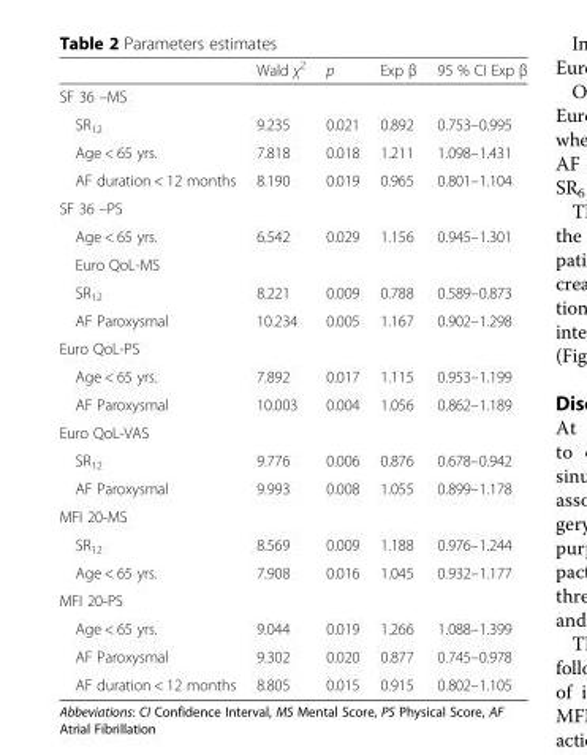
<table><thead><tr><td></td><td>Wald χ<sup>2</sup></td><td>p</td><td>Exp β</td><td>95 % CI Exp β</td></tr></thead><tbody><tr><td colspan="5">SF 36 –MS</td></tr><tr><td>SR<sub>12</sub></td><td>9.235</td><td>0.021</td><td>0.892</td><td>0.753–0.995</td></tr><tr><td>Age &lt; 65 yrs.</td><td>7.818</td><td>0.018</td><td>1.211</td><td>1.098–1.431</td></tr><tr><td>AF duration &lt; 12 months</td><td>8.190</td><td>0.019</td><td>0.965</td><td>0.801–1.104</td></tr><tr><td colspan="5">SF 36 –PS</td></tr><tr><td>Age &lt; 65 yrs.</td><td>6.542</td><td>0.029</td><td>1.156</td><td>0.945–1.301</td></tr><tr><td colspan="5">Euro QoL-MS</td></tr><tr><td>SR<sub>12</sub></td><td>8.221</td><td>0.009</td><td>0.788</td><td>0.589–0.873</td></tr><tr><td>AF Paroxysmal</td><td>10.234</td><td>0.005</td><td>1.167</td><td>0.902–1.298</td></tr><tr><td colspan="5">Euro QoL-PS</td></tr><tr><td>Age &lt; 65 yrs.</td><td>7.892</td><td>0.017</td><td>1.115</td><td>0.953–1.199</td></tr><tr><td>AF Paroxysmal</td><td>10.003</td><td>0.004</td><td>1.056</td><td>0.862–1.189</td></tr><tr><td colspan="5">Euro QoL-VAS</td></tr><tr><td>SR<sub>12</sub></td><td>9.776</td><td>0.006</td><td>0.876</td><td>0.678–0.942</td></tr><tr><td>AF Paroxysmal</td><td>9.993</td><td>0.008</td><td>1.055</td><td>0.899–1.178</td></tr><tr><td colspan="5">MFI 20-MS</td></tr><tr><td>SR<sub>12</sub></td><td>8.569</td><td>0.009</td><td>1.188</td><td>0.976–1.244</td></tr><tr><td>Age &lt; 65 yrs.</td><td>7.908</td><td>0.016</td><td>1.045</td><td>0.932–1.177</td></tr><tr><td colspan="5">MFI 20-PS</td></tr><tr><td>Age &lt; 65 yrs.</td><td>9.044</td><td>0.019</td><td>1.266</td><td>1.088–1.399</td></tr><tr><td>AF Paroxysmal</td><td>9.302</td><td>0.020</td><td>0.877</td><td>0.745–0.978</td></tr><tr><td>AF duration &lt; 12 months</td><td>8.805</td><td>0.015</td><td>0.915</td><td>0.802–1.105</td></tr></tbody></table>